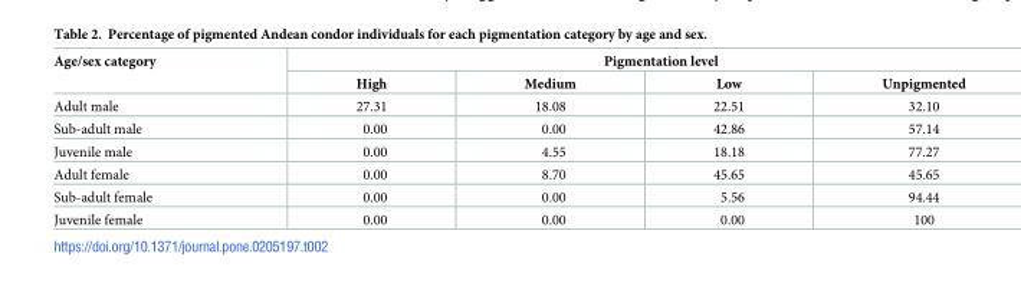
<table><thead><tr><td rowspan="2">Age/sex category</td><td colspan="4">Pigmentation level</td></tr><tr><td>High</td><td>Medium</td><td>Low</td><td>Unpigmented</td></tr></thead><tbody><tr><td>Adult male</td><td>27.31</td><td>18.08</td><td>22.51</td><td>32.10</td></tr><tr><td>Sub-adult male</td><td>0.00</td><td>0.00</td><td>42.86</td><td>57.14</td></tr><tr><td>Juvenile male</td><td>0.00</td><td>4.55</td><td>18.18</td><td>77.27</td></tr><tr><td>Adult female</td><td>0.00</td><td>8.70</td><td>45.65</td><td>45.65</td></tr><tr><td>Sub-adult female</td><td>0.00</td><td>0.00</td><td>5.56</td><td>94.44</td></tr><tr><td>Juvenile female</td><td>0.00</td><td>0.00</td><td>0.00</td><td>100</td></tr></tbody></table>